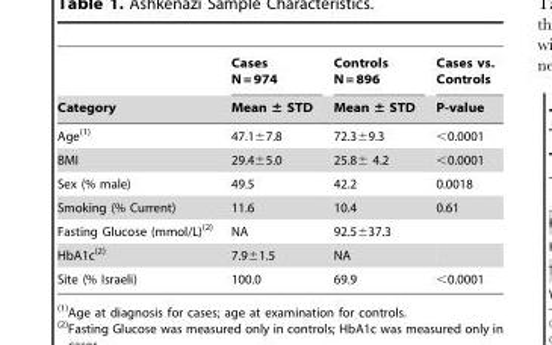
<table><thead><tr><td rowspan="2">Category</td><td rowspan="2">Cases N = 974 Mean ± STD</td><td rowspan="2">Controls N = 896 Mean ± STD</td><td rowspan="2">Cases vs. Controls P-value</td></tr><tr></tr></thead><tbody><tr><td>Age(1)</td><td>47.1±7.8</td><td>72.3±9.3</td><td>&lt;0.0001</td></tr><tr><td>BMI</td><td>29.4±5.0</td><td>25.8± 4.2</td><td>&lt;0.0001</td></tr><tr><td>Sex (% male)</td><td>49.5</td><td>42.2</td><td>0.0018</td></tr><tr><td>Smoking (% Current)</td><td>11.6</td><td>10.4</td><td>0.61</td></tr><tr><td>Fasting Glucose (mmol/L)(2)</td><td>NA</td><td>92.5±37.3</td><td></td></tr><tr><td>HbA1c(2)</td><td>7.9±1.5</td><td>NA</td><td></td></tr><tr><td>Site (% Israeli)</td><td>100.0</td><td>69.9</td><td>&lt;0.0001</td></tr></tbody></table>